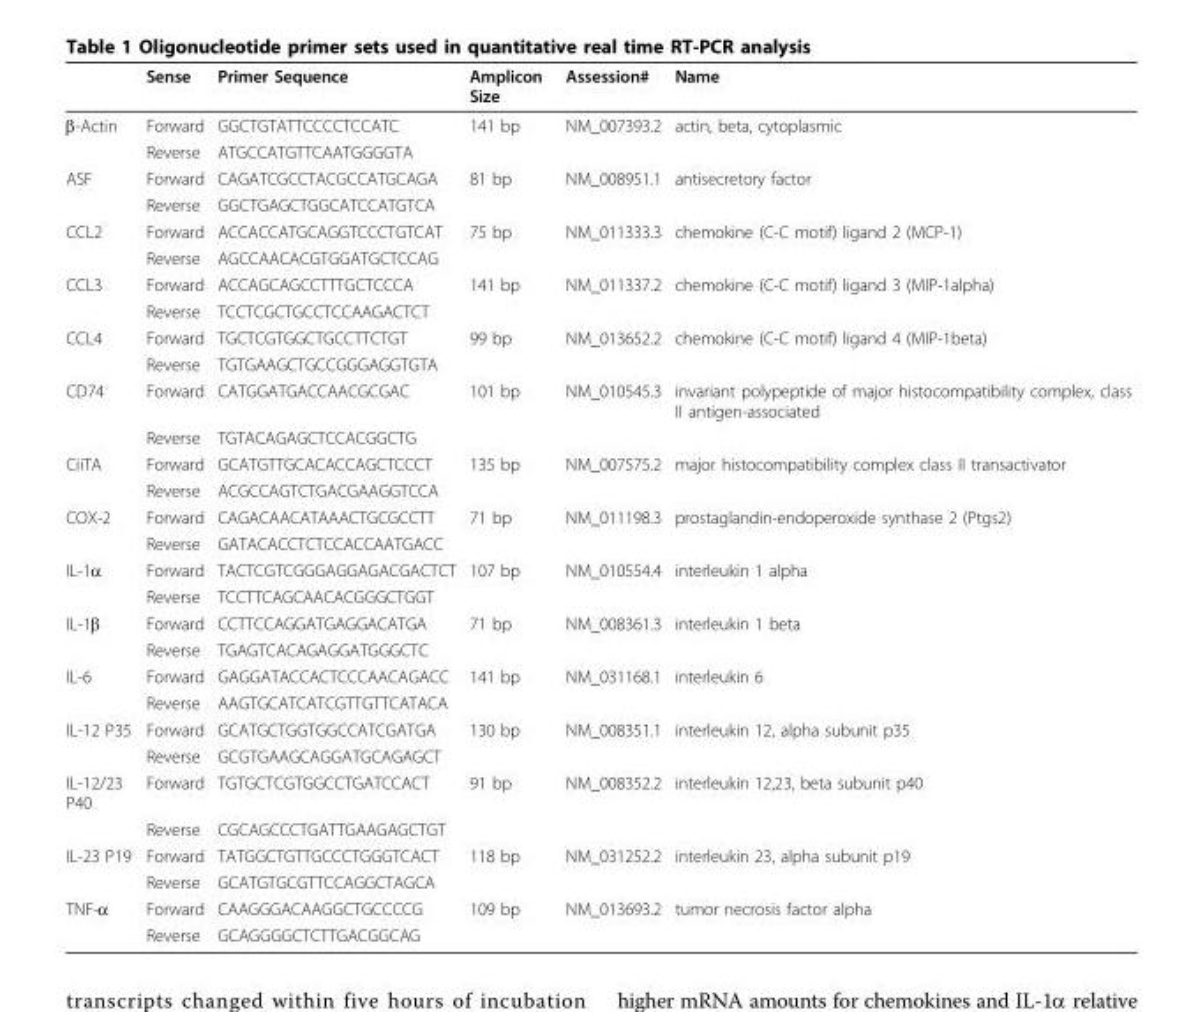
<table><thead><tr><td></td><td>Sense</td><td>Primer Sequence</td><td>Amplicon Size</td><td>Assession#</td><td>Name</td></tr></thead><tbody><tr><td rowspan="2">β-Actin</td><td>Forward</td><td>GGCTGTATTCCCCTCCATC</td><td>141 bp</td><td>NM_007393.2</td><td>actin, beta, cytoplasmic</td></tr><tr><td>Reverse</td><td>ATGCCATGTTCAATGGGGTA</td><td></td><td></td><td></td></tr><tr><td rowspan="2">ASF</td><td>Forward</td><td>CAGATCGCCTACGCCATGCAGA</td><td>81 bp</td><td>NM_008951.1</td><td>antisecretory factor</td></tr><tr><td>Reverse</td><td>GGCTGAGCTGGCATCCATGTCA</td><td></td><td></td><td></td></tr><tr><td rowspan="2">CCL2</td><td>Forward</td><td>ACCACCATGCAGGTCCCTGTCAT</td><td>75 bp</td><td>NM_011333.3</td><td>chemokine (C-C motif) ligand 2 (MCP-1)</td></tr><tr><td>Reverse</td><td>AGCCAACACGTGGATGCTCCAG</td><td></td><td></td><td></td></tr><tr><td rowspan="2">CCL3</td><td>Forward</td><td>ACCAGCAGCCTTTGCTCCCA</td><td>141 bp</td><td>NM_011337.2</td><td>chemokine (C-C motif) ligand 3 (MIP-1alpha)</td></tr><tr><td>Reverse</td><td>TCCTCGCTGCCTCCAAGACTCT</td><td></td><td></td><td></td></tr><tr><td rowspan="2">CCL4</td><td>Forward</td><td>TGCTCGTGGCTGCCTTCTGT</td><td>99 bp</td><td>NM_013652.2</td><td>chemokine (C-C motif) ligand 4 (MIP-1beta)</td></tr><tr><td>Reverse</td><td>TGTGAAGCTGCCGGGAGGTGTA</td><td></td><td></td><td></td></tr><tr><td rowspan="2">CD74</td><td>Forward</td><td>CATGGATGACCAACGCGAC</td><td>101 bp</td><td>NM_010545.3</td><td>invariant polypeptide of major histocompatibility complex, class II antigen-associated</td></tr><tr><td>Reverse</td><td>TGTACAGAGCTCCACGGCTG</td><td></td><td></td><td></td></tr><tr><td rowspan="2">CiiTA</td><td>Forward</td><td>GCATGTTGCACACCAGCTCCCT</td><td>135 bp</td><td>NM_007575.2</td><td>major histocompatibility complex class II transactivator</td></tr><tr><td>Reverse</td><td>ACGCCAGTCTGACGAAGGTCCA</td><td></td><td></td><td></td></tr><tr><td rowspan="2">COX-2</td><td>Forward</td><td>CAGACAACATAAACTGCGCCTT</td><td>71 bp</td><td>NM_011198.3</td><td>prostaglandin-endoperoxide synthase 2 (Ptgs2)</td></tr><tr><td>Reverse</td><td>GATACACCTCTCCACCAATGACC</td><td></td><td></td><td></td></tr><tr><td rowspan="2">IL-1α</td><td>Forward</td><td>TACTCGTCGGGAGGAGACGACTCT</td><td>107 bp</td><td>NM_010554.4</td><td>interleukin 1 alpha</td></tr><tr><td>Reverse</td><td>TCCTTCAGCAACACGGGCTGGT</td><td></td><td></td><td></td></tr><tr><td rowspan="2">IL-1β</td><td>Forward</td><td>CCTTCCAGGATGAGGACATGA</td><td>71 bp</td><td>NM_008361.3</td><td>interleukin 1 beta</td></tr><tr><td>Reverse</td><td>TGAGTCACAGAGGATGGGCTC</td><td></td><td></td><td></td></tr><tr><td rowspan="2">IL-6</td><td>Forward</td><td>GAGGATACCACTCCCAACAGACC</td><td>141 bp</td><td>NM_031168.1</td><td>interleukin 6</td></tr><tr><td>Reverse</td><td>AAGTGCATCATCGTTGTTCATACA</td><td></td><td></td><td></td></tr><tr><td rowspan="2">IL-12 P35</td><td>Forward</td><td>GCATGCTGGTGGCCATCGATGA</td><td>130 bp</td><td>NM_008351.1</td><td>interleukin 12, alpha subunit p35</td></tr><tr><td>Reverse</td><td>GCGTGAAGCAGGATGCAGAGCT</td><td></td><td></td><td></td></tr><tr><td rowspan="2">IL-12/23 P40</td><td>Forward</td><td>TGTGCTCGTGGCCTGATCCACT</td><td>91 bp</td><td>NM_008352.2</td><td>interleukin 12,23, beta subunit p40</td></tr><tr><td>Reverse</td><td>CGCAGCCCTGATTGAAGAGCTGT</td><td></td><td></td><td></td></tr><tr><td rowspan="2">IL-23 P19</td><td>Forward</td><td>TATGGCTGTTGCCCTGGGTCACT</td><td>118 bp</td><td>NM_031252.2</td><td>interleukin 23, alpha subunit p19</td></tr><tr><td>Reverse</td><td>GCATGTGCGTTCCAGGCTAGCA</td><td></td><td></td><td></td></tr><tr><td rowspan="2">TNF-α</td><td>Forward</td><td>CAAGGGACAAGGCTGCCCCG</td><td>109 bp</td><td>NM_013693.2</td><td>tumor necrosis factor alpha</td></tr><tr><td>Reverse</td><td>GCAGGGGCTCTTGACGGCAG</td><td></td><td></td><td></td></tr></tbody></table>